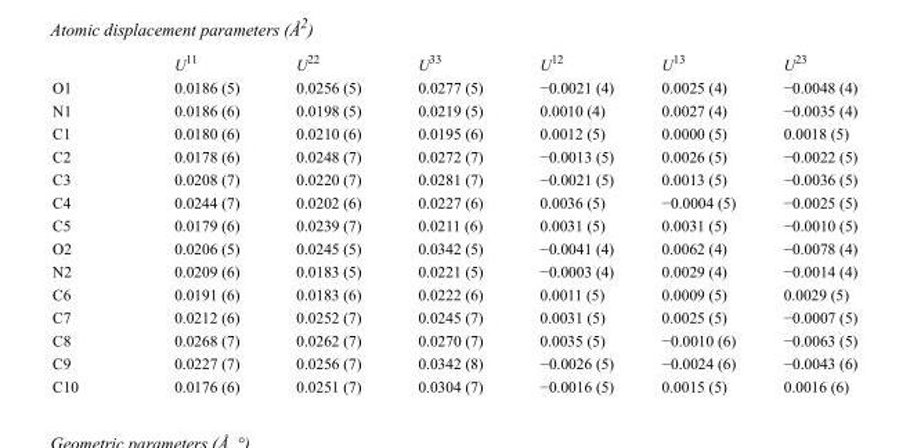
<table><thead><tr><td></td><td>U<sup>11</sup></td><td>U<sup>22</sup></td><td>U<sup>33</sup></td><td>U<sup>12</sup></td><td>U<sup>13</sup></td><td>U<sup>23</sup></td></tr></thead><tbody><tr><td>O1</td><td>0.0186 (5)</td><td>0.0256 (5)</td><td>0.0277 (5)</td><td>−0.0021 (4)</td><td>0.0025 (4)</td><td>−0.0048 (4)</td></tr><tr><td>N1</td><td>0.0186 (6)</td><td>0.0198 (5)</td><td>0.0219 (5)</td><td>0.0010 (4)</td><td>0.0027 (4)</td><td>−0.0035 (4)</td></tr><tr><td>C1</td><td>0.0180 (6)</td><td>0.0210 (6)</td><td>0.0195 (6)</td><td>0.0012 (5)</td><td>0.0000 (5)</td><td>0.0018 (5)</td></tr><tr><td>C2</td><td>0.0178 (6)</td><td>0.0248 (7)</td><td>0.0272 (7)</td><td>−0.0013 (5)</td><td>0.0026 (5)</td><td>−0.0022 (5)</td></tr><tr><td>C3</td><td>0.0208 (7)</td><td>0.0220 (7)</td><td>0.0281 (7)</td><td>−0.0021 (5)</td><td>0.0013 (5)</td><td>−0.0036 (5)</td></tr><tr><td>C4</td><td>0.0244 (7)</td><td>0.0202 (6)</td><td>0.0227 (6)</td><td>0.0036 (5)</td><td>−0.0004 (5)</td><td>−0.0025 (5)</td></tr><tr><td>C5</td><td>0.0179 (6)</td><td>0.0239 (7)</td><td>0.0211 (6)</td><td>0.0031 (5)</td><td>0.0031 (5)</td><td>−0.0010 (5)</td></tr><tr><td>O2</td><td>0.0206 (5)</td><td>0.0245 (5)</td><td>0.0342 (5)</td><td>−0.0041 (4)</td><td>0.0062 (4)</td><td>−0.0078 (4)</td></tr><tr><td>N2</td><td>0.0209 (6)</td><td>0.0183 (5)</td><td>0.0221 (5)</td><td>−0.0003 (4)</td><td>0.0029 (4)</td><td>−0.0014 (4)</td></tr><tr><td>C6</td><td>0.0191 (6)</td><td>0.0183 (6)</td><td>0.0222 (6)</td><td>0.0011 (5)</td><td>0.0009 (5)</td><td>0.0029 (5)</td></tr><tr><td>C7</td><td>0.0212 (6)</td><td>0.0252 (7)</td><td>0.0245 (7)</td><td>0.0031 (5)</td><td>0.0025 (5)</td><td>−0.0007 (5)</td></tr><tr><td>C8</td><td>0.0268 (7)</td><td>0.0262 (7)</td><td>0.0270 (7)</td><td>0.0035 (5)</td><td>−0.0010 (6)</td><td>−0.0063 (5)</td></tr><tr><td>C9</td><td>0.0227 (7)</td><td>0.0256 (7)</td><td>0.0342 (8)</td><td>−0.0026 (5)</td><td>−0.0024 (6)</td><td>−0.0043 (6)</td></tr><tr><td>C10</td><td>0.0176 (6)</td><td>0.0251 (7)</td><td>0.0304 (7)</td><td>−0.0016 (5)</td><td>0.0015 (5)</td><td>0.0016 (6)</td></tr></tbody></table>